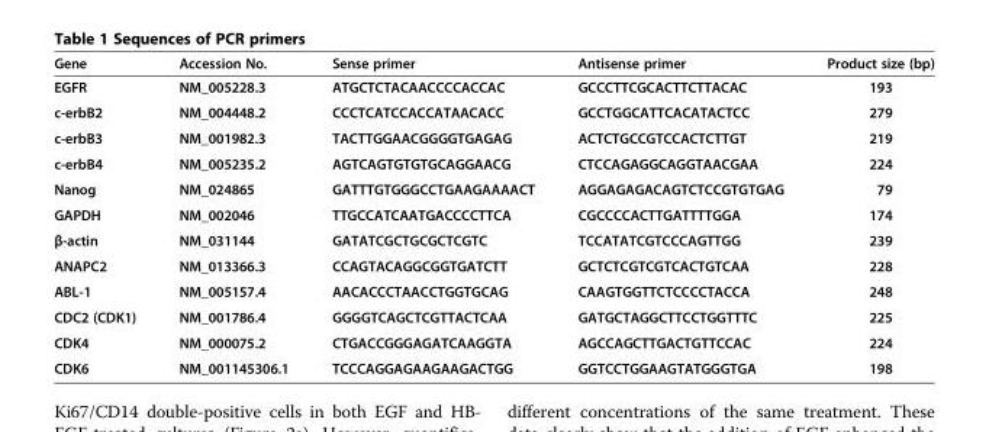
<table><thead><tr><td>Gene</td><td>Accession No.</td><td>Sense primer</td><td>Antisense primer</td><td>Product size (bp)</td></tr></thead><tbody><tr><td>EGFR</td><td>NM_005228.3</td><td>ATGCTCTACAACCCCACCAC</td><td>GCCCTTCGCACTTCTTACAC</td><td>193</td></tr><tr><td>c-erbB2</td><td>NM_004448.2</td><td>CCCTCATCCACCATAACACC</td><td>GCCTGGCATTCACATACTCC</td><td>279</td></tr><tr><td>c-erbB3</td><td>NM_001982.3</td><td>TACTTGGAACGGGGTGAGAG</td><td>ACTCTGCCGTCCACTCTTGT</td><td>219</td></tr><tr><td>c-erbB4</td><td>NM_005235.2</td><td>AGTCAGTGTGTGCAGGAACG</td><td>CTCCAGAGGCAGGTAACGAA</td><td>224</td></tr><tr><td>Nanog</td><td>NM_024865</td><td>GATTTGTGGGCCTGAAGAAAACT</td><td>AGGAGAGACAGTCTCCGTGTGAG</td><td>79</td></tr><tr><td>GAPDH</td><td>NM_002046</td><td>TTGCCATCAATGACCCCTTCA</td><td>CGCCCCACTTGATTTTGGA</td><td>174</td></tr><tr><td>β-actin</td><td>NM_031144</td><td>GATATCGCTGCGCTCGTC</td><td>TCCATATCGTCCCAGTTGG</td><td>239</td></tr><tr><td>ANAPC2</td><td>NM_013366.3</td><td>CCAGTACAGGCGGTGATCTT</td><td>GCTCTCGTCGTCACTGTCAA</td><td>228</td></tr><tr><td>ABL-1</td><td>NM_005157.4</td><td>AACACCCTAACCTGGTGCAG</td><td>CAAGTGGTTCTCCCCTACCA</td><td>248</td></tr><tr><td>CDC2 (CDK1)</td><td>NM_001786.4</td><td>GGGGTCAGCTCGTTACTCAA</td><td>GATGCTAGGCTTCCTGGTTTC</td><td>225</td></tr><tr><td>CDK4</td><td>NM_000075.2</td><td>CTGACCGGGAGATCAAGGTA</td><td>AGCCAGCTTGACTGTTCCAC</td><td>224</td></tr><tr><td>CDK6</td><td>NM_001145306.1</td><td>TCCCAGGAGAAGAAGACTGG</td><td>GGTCCTGGAAGTATGGGTGA</td><td>198</td></tr></tbody></table>